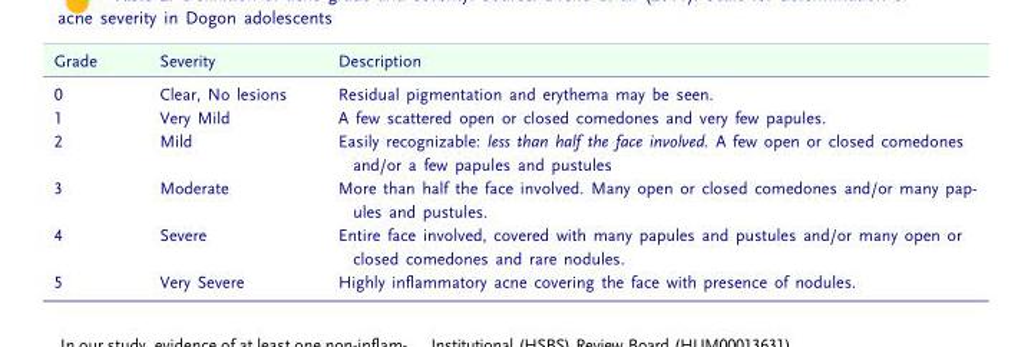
<table><thead><tr><td>Grade</td><td>Severity</td><td>Description</td></tr></thead><tbody><tr><td>0</td><td>Clear, No lesions</td><td>Residual pigmentation and erythema may be seen.</td></tr><tr><td>1</td><td>Very Mild</td><td>A few scattered open or closed comedones and very few papules.</td></tr><tr><td>2</td><td>Mild</td><td>Easily recognizable: less than half the face involved. A few open or closed comedones and/or a few papules and pustules</td></tr><tr><td>3</td><td>Moderate</td><td>More than half the face involved. Many open or closed comedones and/or many pap- ules and pustules.</td></tr><tr><td>4</td><td>Severe</td><td>Entire face involved, covered with many papules and pustules and/or many open or closed comedones and rare nodules.</td></tr><tr><td>5</td><td>Very Severe</td><td>Highly inflammatory acne covering the face with presence of nodules.</td></tr></tbody></table>